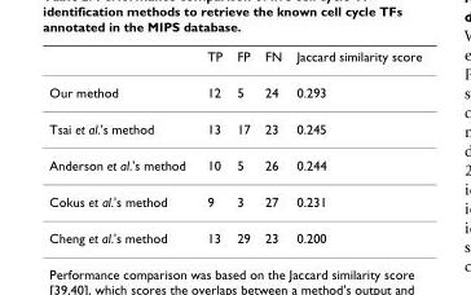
<table><thead><tr><td></td><td>TP</td><td>FP</td><td>FN</td><td>Jaccard similarity score</td></tr></thead><tbody><tr><td>Our method</td><td>12</td><td>5</td><td>24</td><td>0.293</td></tr><tr><td>Tsai et al.&#x27;s method</td><td>13</td><td>17</td><td>23</td><td>0.245</td></tr><tr><td>Anderson et al.&#x27;s method</td><td>10</td><td>5</td><td>26</td><td>0.244</td></tr><tr><td>Cokus et al.&#x27;s method</td><td>9</td><td>3</td><td>27</td><td>0.231</td></tr><tr><td>Cheng et al.&#x27;s method</td><td>13</td><td>29</td><td>23</td><td>0.200</td></tr></tbody></table>